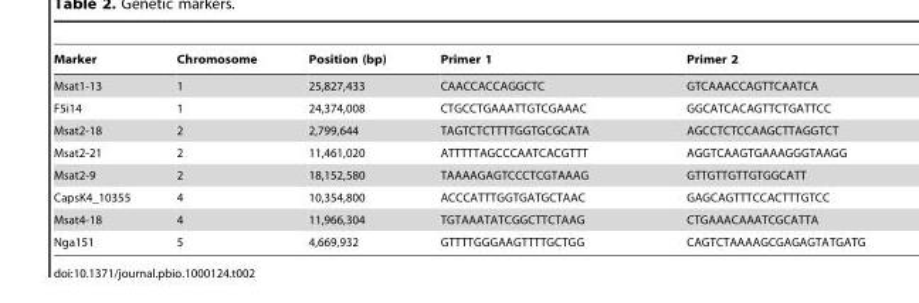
<table><thead><tr><td>Marker</td><td>Chromosome</td><td>Position (bp)</td><td>Primer 1</td><td>Primer 2</td></tr></thead><tbody><tr><td>Msat1-13</td><td>1</td><td>25,827,433</td><td>CAACCACCAGGCTC</td><td>GTCAAACCAGTTCAATCA</td></tr><tr><td>F5i14</td><td>1</td><td>24,374,008</td><td>CTGCCTGAAATTGTCGAAAC</td><td>GGCATCACAGTTCTGATTCC</td></tr><tr><td>Msat2-18</td><td>2</td><td>2,799,644</td><td>TAGTCTCTTTTGGTGCGCATA</td><td>AGCCTCTCCAAGCTTAGGTCT</td></tr><tr><td>Msat2-21</td><td>2</td><td>11,461,020</td><td>ATTTTTAGCCCAATCACGTTT</td><td>AGGTCAAGTGAAAGGGTAAGG</td></tr><tr><td>Msat2-9</td><td>2</td><td>18,152,580</td><td>TAAAAGAGTCCCTCGTAAAG</td><td>GTTGTTGTTGTGGCATT</td></tr><tr><td>CapsK4_10355</td><td>4</td><td>10,354,800</td><td>ACCCATTTGGTGATGCTAAC</td><td>GAGCAGTTTCCACTTTGTCC</td></tr><tr><td>Msat4-18</td><td>4</td><td>11,966,304</td><td>TGTAAATATCGGCTTCTAAG</td><td>CTGAAACAAATCGCATTA</td></tr><tr><td>Nga151</td><td>5</td><td>4,669,932</td><td>GTTTTGGGAAGTTTTGCTGG</td><td>CAGTCTAAAAGCGAGAGTATGATG</td></tr></tbody></table>